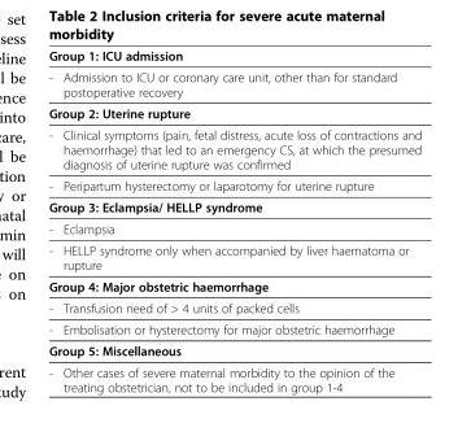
<table><thead><tr><td colspan="2">Group 1: ICU admission</td></tr><tr><td>-</td><td>Admission to ICU or coronary care unit, other than for standard postoperative recovery</td></tr></thead><tbody><tr><td colspan="2">Group 2: Uterine rupture</td></tr><tr><td>-</td><td>Clinical symptoms (pain, fetal distress, acute loss of contractions and haemorrhage) that led to an emergency CS, at which the presumed diagnosis of uterine rupture was confirmed</td></tr><tr><td>-</td><td>Peripartum hysterectomy or laparotomy for uterine rupture</td></tr><tr><td colspan="2">Group 3: Eclampsia/ HELLP syndrome</td></tr><tr><td>-</td><td>Eclampsia</td></tr><tr><td>-</td><td>HELLP syndrome only when accompanied by liver haematoma or rupture</td></tr><tr><td colspan="2">Group 4: Major obstetric haemorrhage</td></tr><tr><td>-</td><td>Transfusion need of &gt; 4 units of packed cells</td></tr><tr><td>-</td><td>Embolisation or hysterectomy for major obstetric haemorrhage</td></tr><tr><td colspan="2">Group 5: Miscellaneous</td></tr><tr><td>-</td><td>Other cases of severe maternal morbidity to the opinion of the treating obstetrician, not to be included in group 1-4</td></tr></tbody></table>